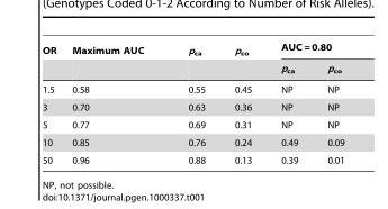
<table><thead><tr><td rowspan="2">OR</td><td rowspan="2">Maximum AUC</td><td rowspan="2">p<sub>ca</sub></td><td rowspan="2">p<sub>co</sub></td><td colspan="2">AUC = 0.80</td></tr><tr><td>p<sub>ca</sub></td><td>p<sub>co</sub></td></tr></thead><tbody><tr><td>1.5</td><td>0.58</td><td>0.55</td><td>0.45</td><td>NP</td><td>NP</td></tr><tr><td>3</td><td>0.70</td><td>0.63</td><td>0.36</td><td>NP</td><td>NP</td></tr><tr><td>5</td><td>0.77</td><td>0.69</td><td>0.31</td><td>NP</td><td>NP</td></tr><tr><td>10</td><td>0.85</td><td>0.76</td><td>0.24</td><td>0.49</td><td>0.09</td></tr><tr><td>50</td><td>0.96</td><td>0.88</td><td>0.13</td><td>0.39</td><td>0.01</td></tr></tbody></table>